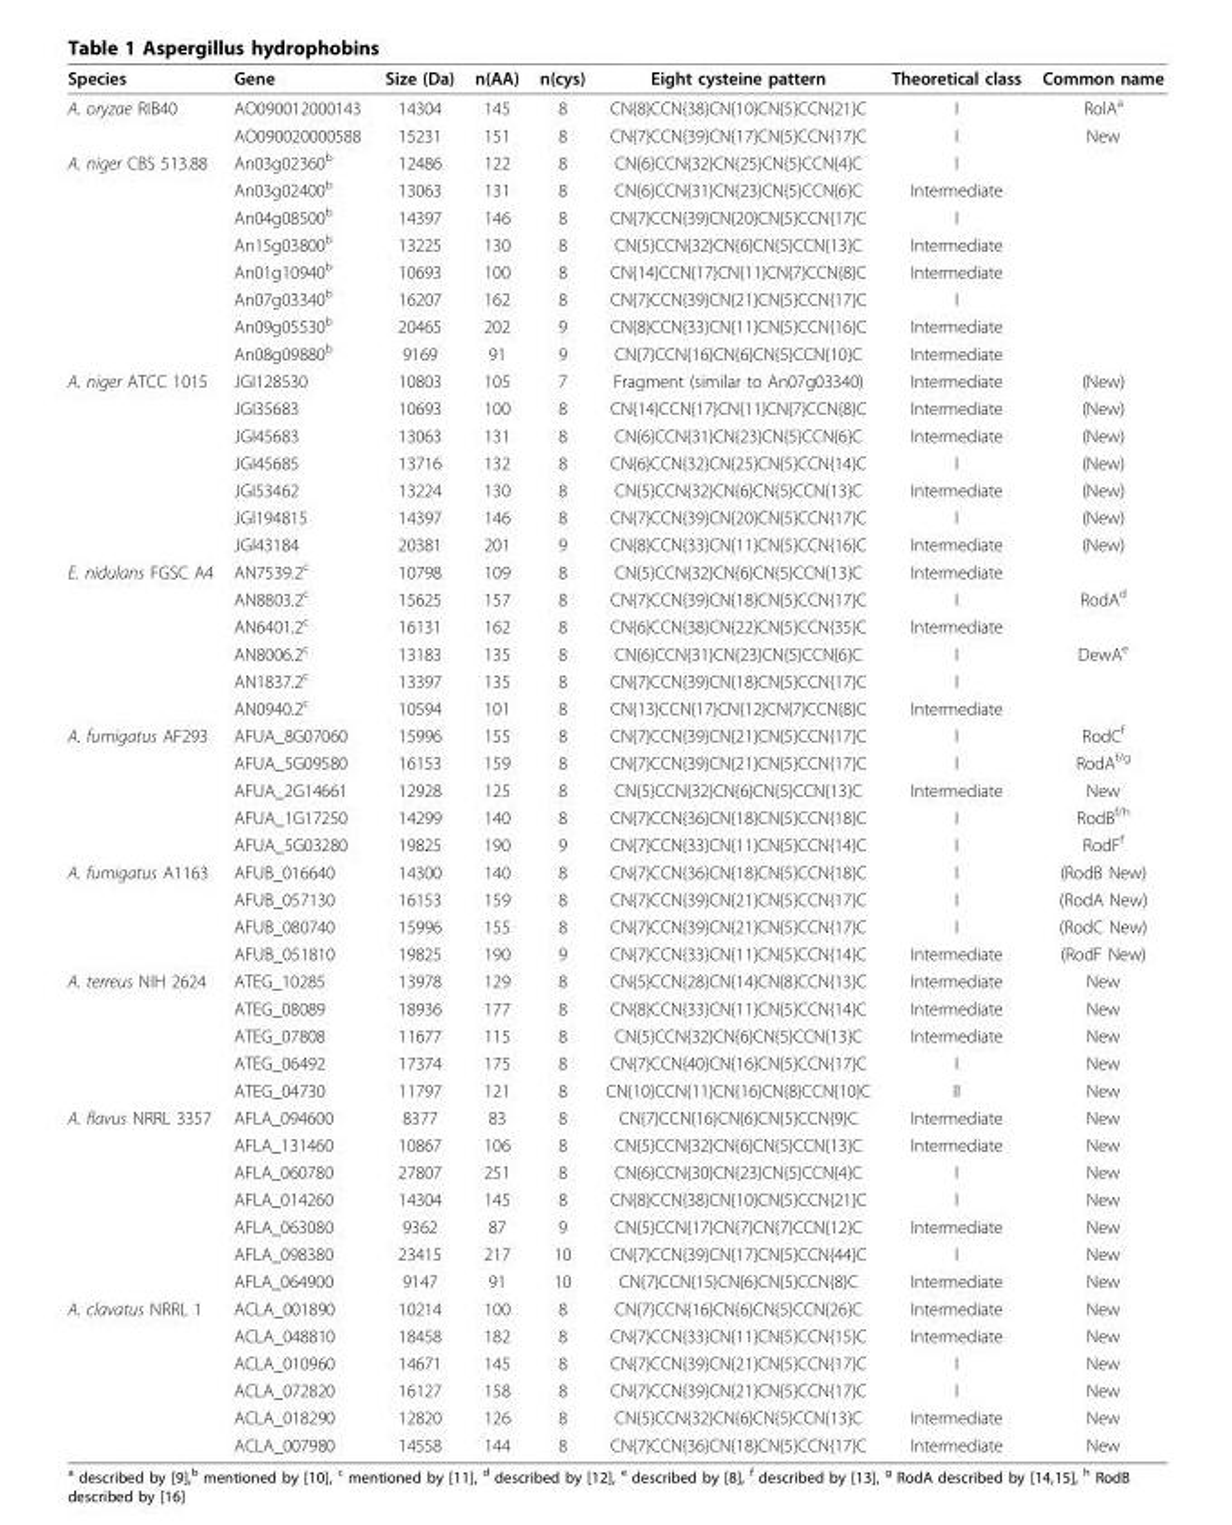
<table><thead><tr><td>Species</td><td>Gene</td><td>Size (Da)</td><td>n(AA)</td><td>n(cys)</td><td>Eight cysteine pattern</td><td>Theoretical class</td><td>Common name</td></tr></thead><tbody><tr><td rowspan="2">A. oryzae RIB40</td><td>AO090012000143</td><td>14304</td><td>145</td><td>8</td><td>CN{8}CCN{38}CN{10}CN{5}CCN{21}C</td><td>I</td><td>RolA<sup>a</sup></td></tr><tr><td>AO090020000588</td><td>15231</td><td>151</td><td>8</td><td>CN{7}CCN{39}CN{17}CN{5}CCN{17}C</td><td>I</td><td>New</td></tr><tr><td rowspan="8">A. niger CBS 513.88</td><td>An03g02360<sup>b</sup></td><td>12486</td><td>122</td><td>8</td><td>CN{6}CCN{32}CN{25}CN{5}CCN{4}C</td><td>I</td><td></td></tr><tr><td>An03g02400<sup>b</sup></td><td>13063</td><td>131</td><td>8</td><td>CN{6}CCN{31}CN{23}CN{5}CCN{6}C</td><td>Intermediate</td><td></td></tr><tr><td>An04g08500<sup>b</sup></td><td>14397</td><td>146</td><td>8</td><td>CN{7}CCN{39}CN{20}CN{5}CCN{17}C</td><td>I</td><td></td></tr><tr><td>An15g03800<sup>b</sup></td><td>13225</td><td>130</td><td>8</td><td>CN{5}CCN{32}CN{6}CN{5}CCN{13}C</td><td>Intermediate</td><td></td></tr><tr><td>An01g10940<sup>b</sup></td><td>10693</td><td>100</td><td>8</td><td>CN{14}CCN{17}CN{11}CN{7}CCN{8}C</td><td>Intermediate</td><td></td></tr><tr><td>An07g03340<sup>b</sup></td><td>16207</td><td>162</td><td>8</td><td>CN{7}CCN{39}CN{21}CN{5}CCN{17}C</td><td>I</td><td></td></tr><tr><td>An09g05530<sup>b</sup></td><td>20465</td><td>202</td><td>9</td><td>CN{8}CCN{33}CN{11}CN{5}CCN{16}C</td><td>Intermediate</td><td></td></tr><tr><td>An08g09880<sup>b</sup></td><td>9169</td><td>91</td><td>9</td><td>CN{7}CCN{16}CN{6}CN{5}CCN{10}C</td><td>Intermediate</td><td></td></tr><tr><td rowspan="7">A. niger ATCC 1015</td><td>JGI128530</td><td>10803</td><td>105</td><td>7</td><td>Fragment (similar to An07g03340)</td><td>Intermediate</td><td>(New)</td></tr><tr><td>JGI35683</td><td>10693</td><td>100</td><td>8</td><td>CN{14}CCN{17}CN{11}CN{7}CCN{8}C</td><td>Intermediate</td><td>(New)</td></tr><tr><td>JGI45683</td><td>13063</td><td>131</td><td>8</td><td>CN{6}CCN{31}CN{23}CN{5}CCN{6}C</td><td>Intermediate</td><td>(New)</td></tr><tr><td>JGI45685</td><td>13716</td><td>132</td><td>8</td><td>CN{6}CCN{32}CN{25}CN{5}CCN{14}C</td><td>I</td><td>(New)</td></tr><tr><td>JGI53462</td><td>13224</td><td>130</td><td>8</td><td>CN{5}CCN{32}CN{6}CN{5}CCN{13}C</td><td>Intermediate</td><td>(New)</td></tr><tr><td>JGI194815</td><td>14397</td><td>146</td><td>8</td><td>CN{7}CCN{39}CN{20}CN{5}CCN{17}C</td><td>I</td><td>(New)</td></tr><tr><td>JGI43184</td><td>20381</td><td>201</td><td>9</td><td>CN{8}CCN{33}CN{11}CN{5}CCN{16}C</td><td>Intermediate</td><td>(New)</td></tr><tr><td rowspan="6">E. nidulans FGSC A4</td><td>AN7539.2<sup>c</sup></td><td>10798</td><td>109</td><td>8</td><td>CN{5}CCN{32}CN{6}CN{5}CCN{13}C</td><td>Intermediate</td><td></td></tr><tr><td>AN8803.2<sup>c</sup></td><td>15625</td><td>157</td><td>8</td><td>CN{7}CCN{39}CN{18}CN{5}CCN{17}C</td><td>I</td><td>RodA<sup>d</sup></td></tr><tr><td>AN6401.2<sup>c</sup></td><td>16131</td><td>162</td><td>8</td><td>CN{6}CCN{38}CN{22}CN{5}CCN{35}C</td><td>Intermediate</td><td></td></tr><tr><td>AN8006.2<sup>c</sup></td><td>13183</td><td>135</td><td>8</td><td>CN{6}CCN{31}CN{23}CN{5}CCN{6}C</td><td>I</td><td>DewA<sup>e</sup></td></tr><tr><td>AN1837.2<sup>c</sup></td><td>13397</td><td>135</td><td>8</td><td>CN{7}CCN{39}CN{18}CN{5}CCN{17}C</td><td>I</td><td></td></tr><tr><td>AN0940.2<sup>c</sup></td><td>10594</td><td>101</td><td>8</td><td>CN{13}CCN{17}CN{12}CN{7}CCN{8}C</td><td>Intermediate</td><td></td></tr><tr><td rowspan="5">A. fumigatus AF293</td><td>AFUA_8G07060</td><td>15996</td><td>155</td><td>8</td><td>CN{7}CCN{39}CN{21}CN{5}CCN{17}C</td><td>I</td><td>RodC<sup>f</sup></td></tr><tr><td>AFUA_5G09580</td><td>16153</td><td>159</td><td>8</td><td>CN{7}CCN{39}CN{21}CN{5}CCN{17}C</td><td>I</td><td>RodA<sup>f/g</sup></td></tr><tr><td>AFUA_2G14661</td><td>12928</td><td>125</td><td>8</td><td>CN{5}CCN{32}CN{6}CN{5}CCN{13}C</td><td>Intermediate</td><td>New</td></tr><tr><td>AFUA_1G17250</td><td>14299</td><td>140</td><td>8</td><td>CN{7}CCN{36}CN{18}CN{5}CCN{18}C</td><td>I</td><td>RodB<sup>f/h</sup></td></tr><tr><td>AFUA_5G03280</td><td>19825</td><td>190</td><td>9</td><td>CN{7}CCN{33}CN{11}CN{5}CCN{14}C</td><td>I</td><td>RodF<sup>f</sup></td></tr><tr><td rowspan="4">A. fumigatus A1163</td><td>AFUB_016640</td><td>14300</td><td>140</td><td>8</td><td>CN{7}CCN{36}CN{18}CN{5}CCN{18}C</td><td>I</td><td>(RodB New)</td></tr><tr><td>AFUB_057130</td><td>16153</td><td>159</td><td>8</td><td>CN{7}CCN{39}CN{21}CN{5}CCN{17}C</td><td>I</td><td>(RodA New)</td></tr><tr><td>AFUB_080740</td><td>15996</td><td>155</td><td>8</td><td>CN{7}CCN{39}CN{21}CN{5}CCN{17}C</td><td>I</td><td>(RodC New)</td></tr><tr><td>AFUB_051810</td><td>19825</td><td>190</td><td>9</td><td>CN{7}CCN{33}CN{11}CN{5}CCN{14}C</td><td>Intermediate</td><td>(RodF New)</td></tr><tr><td rowspan="5">A. terreus NIH 2624</td><td>ATEG_10285</td><td>13978</td><td>129</td><td>8</td><td>CN{5}CCN{28}CN{14}CN{8}CCN{13}C</td><td>Intermediate</td><td>New</td></tr><tr><td>ATEG_08089</td><td>18936</td><td>177</td><td>8</td><td>CN{8}CCN{33}CN{11}CN{5}CCN{14}C</td><td>Intermediate</td><td>New</td></tr><tr><td>ATEG_07808</td><td>11677</td><td>115</td><td>8</td><td>CN{5}CCN{32}CN{6}CN{5}CCN{13}C</td><td>Intermediate</td><td>New</td></tr><tr><td>ATEG_06492</td><td>17374</td><td>175</td><td>8</td><td>CN{7}CCN{40}CN{16}CN{5}CCN{17}C</td><td>I</td><td>New</td></tr><tr><td>ATEG_04730</td><td>11797</td><td>121</td><td>8</td><td>CN{10}CCN{11}CN{16}CN{8}CCN{10}C</td><td>II</td><td>New</td></tr><tr><td rowspan="7">A. flavus NRRL 3357</td><td>AFLA_094600</td><td>8377</td><td>83</td><td>8</td><td>CN{7}CCN{16}CN{6}CN{5}CCN{9}C</td><td>Intermediate</td><td>New</td></tr><tr><td>AFLA_131460</td><td>10867</td><td>106</td><td>8</td><td>CN{5}CCN{32}CN{6}CN{5}CCN{13}C</td><td>Intermediate</td><td>New</td></tr><tr><td>AFLA_060780</td><td>27807</td><td>251</td><td>8</td><td>CN{6}CCN{30}CN{23}CN{5}CCN{4}C</td><td>I</td><td>New</td></tr><tr><td>AFLA_014260</td><td>14304</td><td>145</td><td>8</td><td>CN{8}CCN{38}CN{10}CN{5}CCN{21}C</td><td>I</td><td>New</td></tr><tr><td>AFLA_063080</td><td>9362</td><td>87</td><td>9</td><td>CN{5}CCN{17}CN{7}CN{7}CCN{12}C</td><td>Intermediate</td><td>New</td></tr><tr><td>AFLA_098380</td><td>23415</td><td>217</td><td>10</td><td>CN{7}CCN{39}CN{17}CN{5}CCN{44}C</td><td>I</td><td>New</td></tr><tr><td>AFLA_064900</td><td>9147</td><td>91</td><td>10</td><td>CN{7}CCN{15}CN{6}CN{5}CCN{8}C</td><td>Intermediate</td><td>New</td></tr><tr><td rowspan="6">A. clavatus NRRL 1</td><td>ACLA_001890</td><td>10214</td><td>100</td><td>8</td><td>CN{7}CCN{16}CN{6}CN{5}CCN{26}C</td><td>Intermediate</td><td>New</td></tr><tr><td>ACLA_048810</td><td>18458</td><td>182</td><td>8</td><td>CN{7}CCN{33}CN{11}CN{5}CCN{15}C</td><td>Intermediate</td><td>New</td></tr><tr><td>ACLA_010960</td><td>14671</td><td>145</td><td>8</td><td>CN{7}CCN{39}CN{21}CN{5}CCN{17}C</td><td>I</td><td>New</td></tr><tr><td>ACLA_072820</td><td>16127</td><td>158</td><td>8</td><td>CN{7}CCN{39}CN{21}CN{5}CCN{17}C</td><td>I</td><td>New</td></tr><tr><td>ACLA_018290</td><td>12820</td><td>126</td><td>8</td><td>CN{5}CCN{32}CN{6}CN{5}CCN{13}C</td><td>Intermediate</td><td>New</td></tr><tr><td>ACLA_007980</td><td>14558</td><td>144</td><td>8</td><td>CN{7}CCN{36}CN{18}CN{5}CCN{17}C</td><td>Intermediate</td><td>New</td></tr></tbody></table>